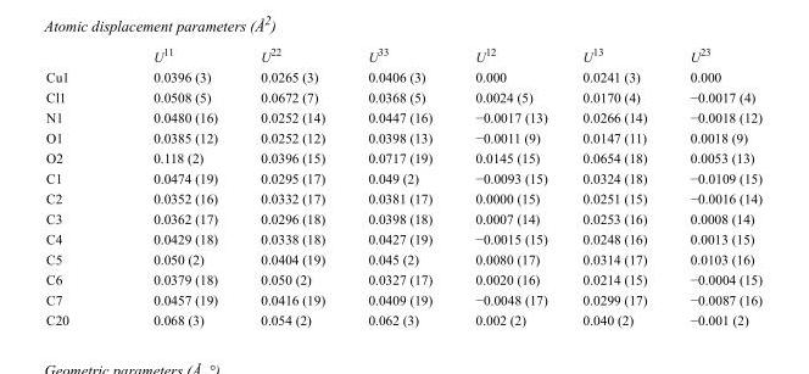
<table><thead><tr><td></td><td>U<sup>11</sup></td><td>U<sup>22</sup></td><td>U<sup>33</sup></td><td>U<sup>12</sup></td><td>U<sup>13</sup></td><td>U<sup>23</sup></td></tr></thead><tbody><tr><td>Cu1</td><td>0.0396 (3)</td><td>0.0265 (3)</td><td>0.0406 (3)</td><td>0.000</td><td>0.0241 (3)</td><td>0.000</td></tr><tr><td>Cl1</td><td>0.0508 (5)</td><td>0.0672 (7)</td><td>0.0368 (5)</td><td>0.0024 (5)</td><td>0.0170 (4)</td><td>−0.0017 (4)</td></tr><tr><td>N1</td><td>0.0480 (16)</td><td>0.0252 (14)</td><td>0.0447 (16)</td><td>−0.0017 (13)</td><td>0.0266 (14)</td><td>−0.0018 (12)</td></tr><tr><td>O1</td><td>0.0385 (12)</td><td>0.0252 (12)</td><td>0.0398 (13)</td><td>−0.0011 (9)</td><td>0.0147 (11)</td><td>0.0018 (9)</td></tr><tr><td>O2</td><td>0.118 (2)</td><td>0.0396 (15)</td><td>0.0717 (19)</td><td>0.0145 (15)</td><td>0.0654 (18)</td><td>0.0053 (13)</td></tr><tr><td>C1</td><td>0.0474 (19)</td><td>0.0295 (17)</td><td>0.049 (2)</td><td>−0.0093 (15)</td><td>0.0324 (18)</td><td>−0.0109 (15)</td></tr><tr><td>C2</td><td>0.0352 (16)</td><td>0.0332 (17)</td><td>0.0381 (17)</td><td>0.0000 (15)</td><td>0.0251 (15)</td><td>−0.0016 (14)</td></tr><tr><td>C3</td><td>0.0362 (17)</td><td>0.0296 (18)</td><td>0.0398 (18)</td><td>0.0007 (14)</td><td>0.0253 (16)</td><td>0.0008 (14)</td></tr><tr><td>C4</td><td>0.0429 (18)</td><td>0.0338 (18)</td><td>0.0427 (19)</td><td>−0.0015 (15)</td><td>0.0248 (16)</td><td>0.0013 (15)</td></tr><tr><td>C5</td><td>0.050 (2)</td><td>0.0404 (19)</td><td>0.045 (2)</td><td>0.0080 (17)</td><td>0.0314 (17)</td><td>0.0103 (16)</td></tr><tr><td>C6</td><td>0.0379 (18)</td><td>0.050 (2)</td><td>0.0327 (17)</td><td>0.0020 (16)</td><td>0.0214 (15)</td><td>−0.0004 (15)</td></tr><tr><td>C7</td><td>0.0457 (19)</td><td>0.0416 (19)</td><td>0.0409 (19)</td><td>−0.0048 (17)</td><td>0.0299 (17)</td><td>−0.0087 (16)</td></tr><tr><td>C20</td><td>0.068 (3)</td><td>0.054 (2)</td><td>0.062 (3)</td><td>0.002 (2)</td><td>0.040 (2)</td><td>−0.001 (2)</td></tr></tbody></table>